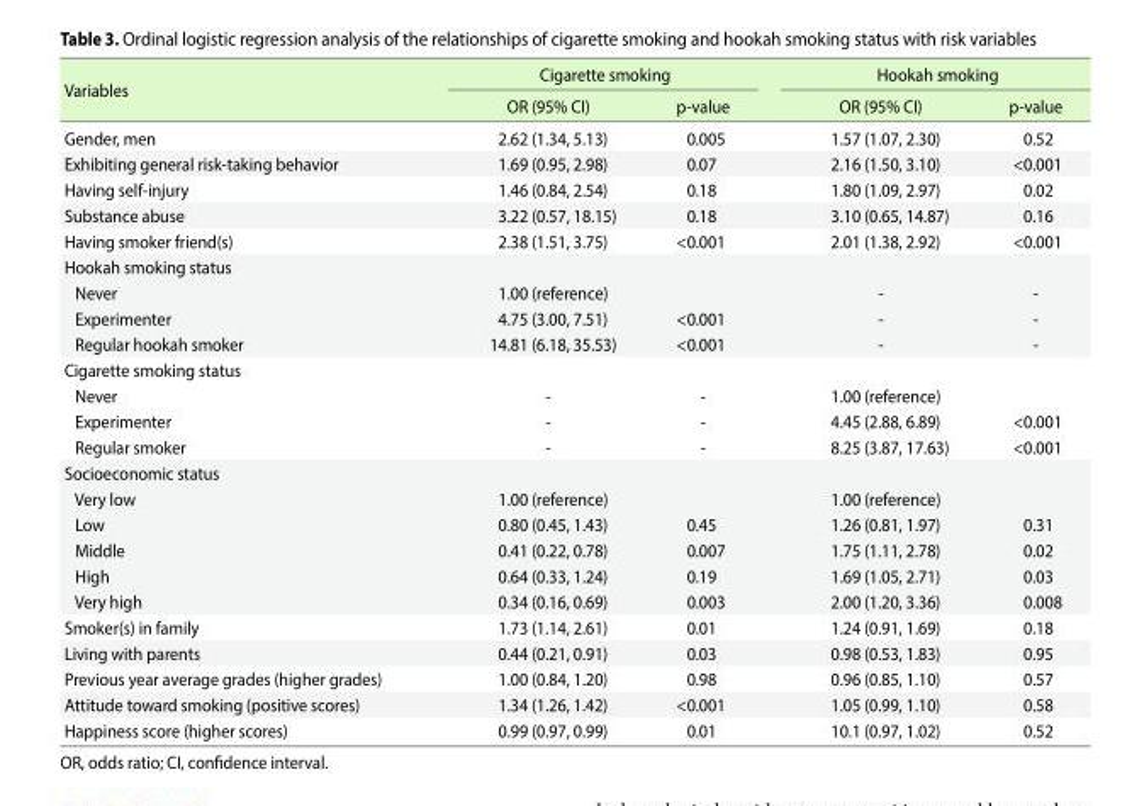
<table><thead><tr><td rowspan="2">Variables</td><td colspan="2">Cigarette smoking</td><td colspan="2">Hookah smoking</td></tr><tr><td>OR (95% CI)</td><td>p-value</td><td>OR (95% CI)</td><td>p-value</td></tr></thead><tbody><tr><td>Gender, men</td><td>2.62 (1.34, 5.13)</td><td>0.005</td><td>1.57 (1.07, 2.30)</td><td>0.52</td></tr><tr><td>Exhibiting general risk-taking behavior</td><td>1.69 (0.95, 2.98)</td><td>0.07</td><td>2.16 (1.50, 3.10)</td><td>&lt;0.001</td></tr><tr><td>Having self-injury</td><td>1.46 (0.84, 2.54)</td><td>0.18</td><td>1.80 (1.09, 2.97)</td><td>0.02</td></tr><tr><td>Substance abuse</td><td>3.22 (0.57, 18.15)</td><td>0.18</td><td>3.10 (0.65, 14.87)</td><td>0.16</td></tr><tr><td>Having smoker friend(s)</td><td>2.38 (1.51, 3.75)</td><td>&lt;0.001</td><td>2.01 (1.38, 2.92)</td><td>&lt;0.001</td></tr><tr><td colspan="5">Hookah smoking status</td></tr><tr><td>Never</td><td>1.00 (reference)</td><td></td><td>-</td><td>-</td></tr><tr><td>Experimenter</td><td>4.75 (3.00, 7.51)</td><td>&lt;0.001</td><td>-</td><td>-</td></tr><tr><td>Regular hookah smoker</td><td>14.81 (6.18, 35.53)</td><td>&lt;0.001</td><td>-</td><td>-</td></tr><tr><td colspan="5">Cigarette smoking status</td></tr><tr><td>Never</td><td>-</td><td>-</td><td>1.00 (reference)</td><td></td></tr><tr><td>Experimenter</td><td>-</td><td>-</td><td>4.45 (2.88, 6.89)</td><td>&lt;0.001</td></tr><tr><td>Regular smoker</td><td>-</td><td>-</td><td>8.25 (3.87, 17.63)</td><td>&lt;0.001</td></tr><tr><td colspan="5">Socioeconomic status</td></tr><tr><td>Very low</td><td>1.00 (reference)</td><td></td><td>1.00 (reference)</td><td></td></tr><tr><td>Low</td><td>0.80 (0.45, 1.43)</td><td>0.45</td><td>1.26 (0.81, 1.97)</td><td>0.31</td></tr><tr><td>Middle</td><td>0.41 (0.22, 0.78)</td><td>0.007</td><td>1.75 (1.11, 2.78)</td><td>0.02</td></tr><tr><td>High</td><td>0.64 (0.33, 1.24)</td><td>0.19</td><td>1.69 (1.05, 2.71)</td><td>0.03</td></tr><tr><td>Very high</td><td>0.34 (0.16, 0.69)</td><td>0.003</td><td>2.00 (1.20, 3.36)</td><td>0.008</td></tr><tr><td>Smoker(s) in family</td><td>1.73 (1.14, 2.61)</td><td>0.01</td><td>1.24 (0.91, 1.69)</td><td>0.18</td></tr><tr><td>Living with parents</td><td>0.44 (0.21, 0.91)</td><td>0.03</td><td>0.98 (0.53, 1.83)</td><td>0.95</td></tr><tr><td>Previous year average grades (higher grades)</td><td>1.00 (0.84, 1.20)</td><td>0.98</td><td>0.96 (0.85, 1.10)</td><td>0.57</td></tr><tr><td>Attitude toward smoking (positive scores)</td><td>1.34 (1.26, 1.42)</td><td>&lt;0.001</td><td>1.05 (0.99, 1.10)</td><td>0.58</td></tr><tr><td>Happiness score (higher scores)</td><td>0.99 (0.97, 0.99)</td><td>0.01</td><td>10.1 (0.97, 1.02)</td><td>0.52</td></tr></tbody></table>